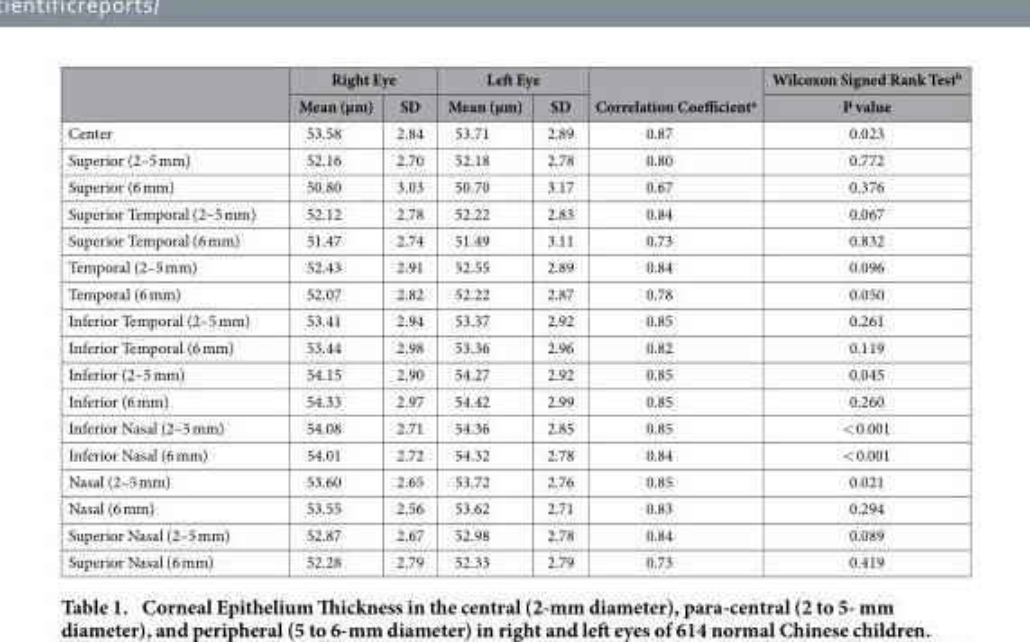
<table><thead><tr><td rowspan="2"></td><td colspan="2">Right Eye</td><td colspan="2">Left Eye</td><td rowspan="2">Correlation Coefficient<sup>a</sup></td><td rowspan="2">Wilcoxon Signed Rank Test<sup>b</sup> P value</td></tr><tr><td>Mean (μm)</td><td>SD</td><td>Mean (μm)</td><td>SD</td></tr></thead><tbody><tr><td>Center</td><td>53.58</td><td>2.84</td><td>53.71</td><td>2.89</td><td>0.87</td><td>0.023</td></tr><tr><td>Superior (2–5 mm)</td><td>52.16</td><td>2.70</td><td>52.18</td><td>2.78</td><td>0.80</td><td>0.772</td></tr><tr><td>Superior (6 mm)</td><td>50.80</td><td>3.03</td><td>50.70</td><td>3.17</td><td>0.67</td><td>0.376</td></tr><tr><td>Superior Temporal (2–5 mm)</td><td>52.12</td><td>2.78</td><td>52.22</td><td>2.83</td><td>0.84</td><td>0.067</td></tr><tr><td>Superior Temporal (6 mm)</td><td>51.47</td><td>2.74</td><td>51.49</td><td>3.11</td><td>0.73</td><td>0.832</td></tr><tr><td>Temporal (2–5 mm)</td><td>52.43</td><td>2.91</td><td>52.55</td><td>2.89</td><td>0.84</td><td>0.096</td></tr><tr><td>Temporal (6 mm)</td><td>52.07</td><td>2.82</td><td>52.22</td><td>2.87</td><td>0.78</td><td>0.050</td></tr><tr><td>Inferior Temporal (2–5 mm)</td><td>53.41</td><td>2.94</td><td>53.37</td><td>2.92</td><td>0.85</td><td>0.261</td></tr><tr><td>Inferior Temporal (6 mm)</td><td>53.44</td><td>2.98</td><td>53.36</td><td>2.96</td><td>0.82</td><td>0.119</td></tr><tr><td>Inferior (2–5 mm)</td><td>54.15</td><td>2.90</td><td>54.27</td><td>2.92</td><td>0.85</td><td>0.045</td></tr><tr><td>Inferior (6 mm)</td><td>54.33</td><td>2.97</td><td>54.42</td><td>2.99</td><td>0.85</td><td>0.260</td></tr><tr><td>Inferior Nasal (2–5 mm)</td><td>54.08</td><td>2.71</td><td>54.36</td><td>2.85</td><td>0.85</td><td>&lt; 0.001</td></tr><tr><td>Inferior Nasal (6 mm)</td><td>54.01</td><td>2.72</td><td>54.32</td><td>2.78</td><td>0.84</td><td>&lt; 0.001</td></tr><tr><td>Nasal (2–5 mm)</td><td>53.60</td><td>2.65</td><td>53.72</td><td>2.76</td><td>0.85</td><td>0.021</td></tr><tr><td>Nasal (6 mm)</td><td>53.55</td><td>2.56</td><td>53.62</td><td>2.71</td><td>0.83</td><td>0.294</td></tr><tr><td>Superior Nasal (2–5 mm)</td><td>52.87</td><td>2.67</td><td>52.98</td><td>2.78</td><td>0.84</td><td>0.089</td></tr><tr><td>Superior Nasal (6 mm)</td><td>52.28</td><td>2.79</td><td>52.33</td><td>2.79</td><td>0.73</td><td>0.419</td></tr></tbody></table>